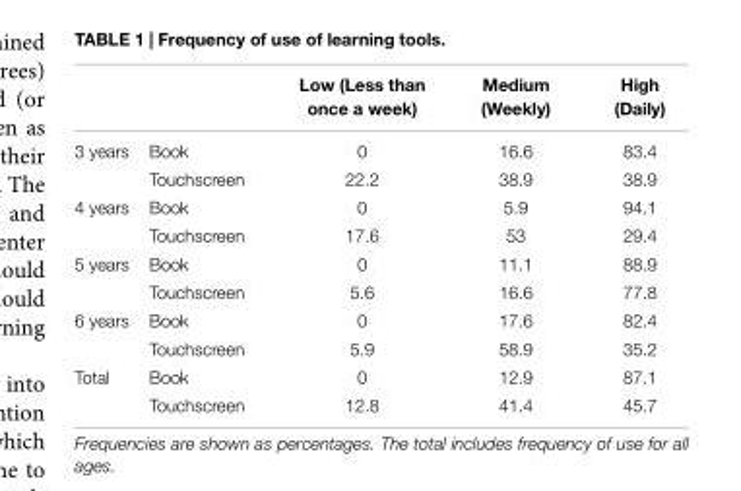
<table><thead><tr><td></td><td></td><td>Low (Less than once a week)</td><td>Medium (Weekly)</td><td>High (Daily)</td></tr></thead><tbody><tr><td rowspan="2">3 years</td><td>Book</td><td>0</td><td>16.6</td><td>83.4</td></tr><tr><td>Touchscreen</td><td>22.2</td><td>38.9</td><td>38.9</td></tr><tr><td rowspan="2">4 years</td><td>Book</td><td>0</td><td>5.9</td><td>94.1</td></tr><tr><td>Touchscreen</td><td>17.6</td><td>53</td><td>29.4</td></tr><tr><td rowspan="2">5 years</td><td>Book</td><td>0</td><td>11.1</td><td>88.9</td></tr><tr><td>Touchscreen</td><td>5.6</td><td>16.6</td><td>77.8</td></tr><tr><td rowspan="2">6 years</td><td>Book</td><td>0</td><td>17.6</td><td>82.4</td></tr><tr><td>Touchscreen</td><td>5.9</td><td>58.9</td><td>35.2</td></tr><tr><td rowspan="2">Total</td><td>Book</td><td>0</td><td>12.9</td><td>87.1</td></tr><tr><td>Touchscreen</td><td>12.8</td><td>41.4</td><td>45.7</td></tr></tbody></table>